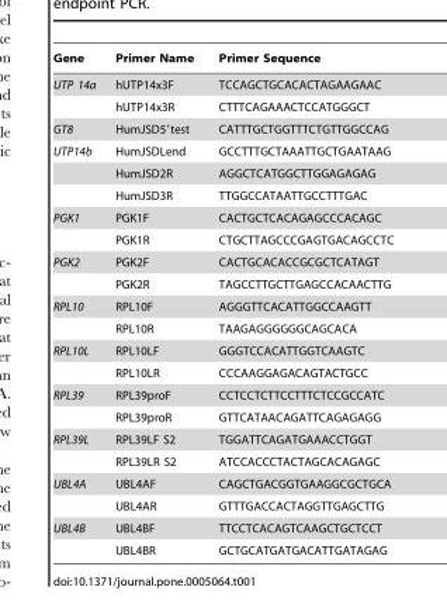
<table><thead><tr><td>Gene</td><td>Primer Name</td><td>Primer Sequence</td></tr></thead><tbody><tr><td rowspan="2">UTP 14a</td><td>hUTP14x3F</td><td>TCCAGCTGCACACTAGAAGAAC</td></tr><tr><td>hUTP14x3R</td><td>CTTTCAGAAACTCCATGGGCT</td></tr><tr><td>GT8</td><td>HumJSD5′test</td><td>CATTTGCTGGTTTCTGTTGGCCAG</td></tr><tr><td rowspan="3">UTP14b</td><td>HumJSDLend</td><td>GCCTTTGCTAAATTGCTGAATAAG</td></tr><tr><td>HumJSD2R</td><td>AGGCTCATGGCTTGGAGAGAG</td></tr><tr><td>HumJSD3R</td><td>TTGGCCATAATTGCCTTTGAC</td></tr><tr><td rowspan="2">PGK1</td><td>PGK1F</td><td>CACTGCTCACAGAGCCCACAGC</td></tr><tr><td>PGK1R</td><td>CTGCTTAGCCCGAGTGACAGCCTC</td></tr><tr><td rowspan="2">PGK2</td><td>PGK2F</td><td>CACTGCACACCGCGCTCATAGT</td></tr><tr><td>PGK2R</td><td>TAGCCTTGCTTGAGCCACAACTTG</td></tr><tr><td rowspan="2">RPL10</td><td>RPL10F</td><td>AGGGTTCACATTGGCCAAGTT</td></tr><tr><td>RPL10R</td><td>TAAGAGGGGGGCAGCACA</td></tr><tr><td rowspan="2">RPL10L</td><td>RPL10LF</td><td>GGGTCCACATTGGTCAAGTC</td></tr><tr><td>RPL10LR</td><td>CCCAAGGAGACAGTACTGCC</td></tr><tr><td rowspan="2">RPL39</td><td>RPL39proF</td><td>CCTCCTCTTCCTTTCTCCGCCATC</td></tr><tr><td>RPL39proR</td><td>GTTCATAACAGATTCAGAGAGG</td></tr><tr><td rowspan="2">RPL39L</td><td>RPL39LF S2</td><td>TGGATTCAGATGAAACCTGGT</td></tr><tr><td>RPL39LR S2</td><td>ATCCACCCTACTAGCACAGAGC</td></tr><tr><td rowspan="2">UBL4A</td><td>UBL4AF</td><td>CAGCTGACGGTGAAGGCGCTGCA</td></tr><tr><td>UBL4AR</td><td>GTTTGACCACTAGGTTGAGCTTG</td></tr><tr><td rowspan="2">UBL4B</td><td>UBL4BF</td><td>TTCCTCACAGTCAAGCTGCTCCT</td></tr><tr><td>UBL4BR</td><td>GCTGCATGATGACATTGATAGAG</td></tr></tbody></table>